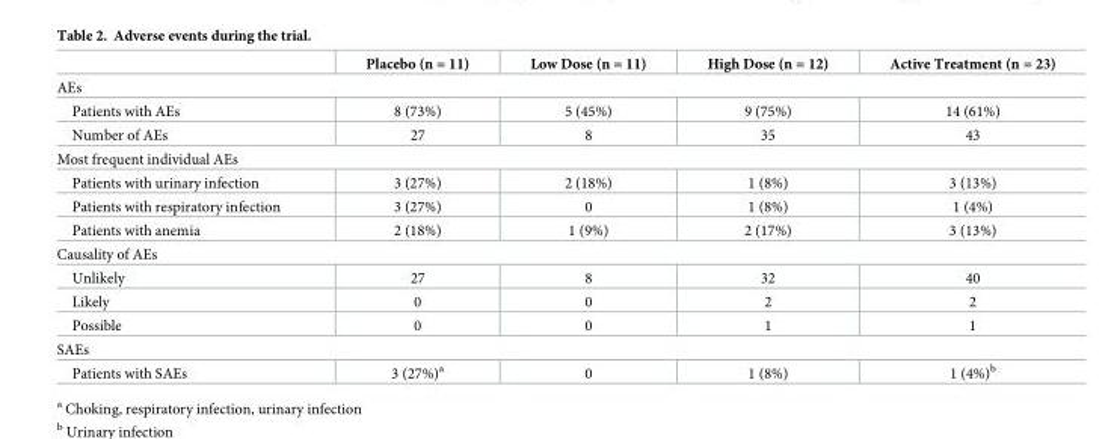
<table><thead><tr><td></td><td>Placebo (n = 11)</td><td>Low Dose (n = 11)</td><td>High Dose (n = 12)</td><td>Active Treatment (n = 23)</td></tr></thead><tbody><tr><td colspan="5">AEs</td></tr><tr><td>Patients with AEs</td><td>8 (73%)</td><td>5 (45%)</td><td>9 (75%)</td><td>14 (61%)</td></tr><tr><td>Number of AEs</td><td>27</td><td>8</td><td>35</td><td>43</td></tr><tr><td colspan="5">Most frequent individual AEs</td></tr><tr><td>Patients with urinary infection</td><td>3 (27%)</td><td>2 (18%)</td><td>1 (8%)</td><td>3 (13%)</td></tr><tr><td>Patients with respiratory infection</td><td>3 (27%)</td><td>0</td><td>1 (8%)</td><td>1 (4%)</td></tr><tr><td>Patients with anemia</td><td>2 (18%)</td><td>1 (9%)</td><td>2 (17%)</td><td>3 (13%)</td></tr><tr><td colspan="5">Causality of AEs</td></tr><tr><td>Unlikely</td><td>27</td><td>8</td><td>32</td><td>40</td></tr><tr><td>Likely</td><td>0</td><td>0</td><td>2</td><td>2</td></tr><tr><td>Possible</td><td>0</td><td>0</td><td>1</td><td>1</td></tr><tr><td colspan="5">SAEs</td></tr><tr><td>Patients with SAEs</td><td>3 (27%)<sup>a</sup></td><td>0</td><td>1 (8%)</td><td>1 (4%)<sup>b</sup></td></tr></tbody></table>